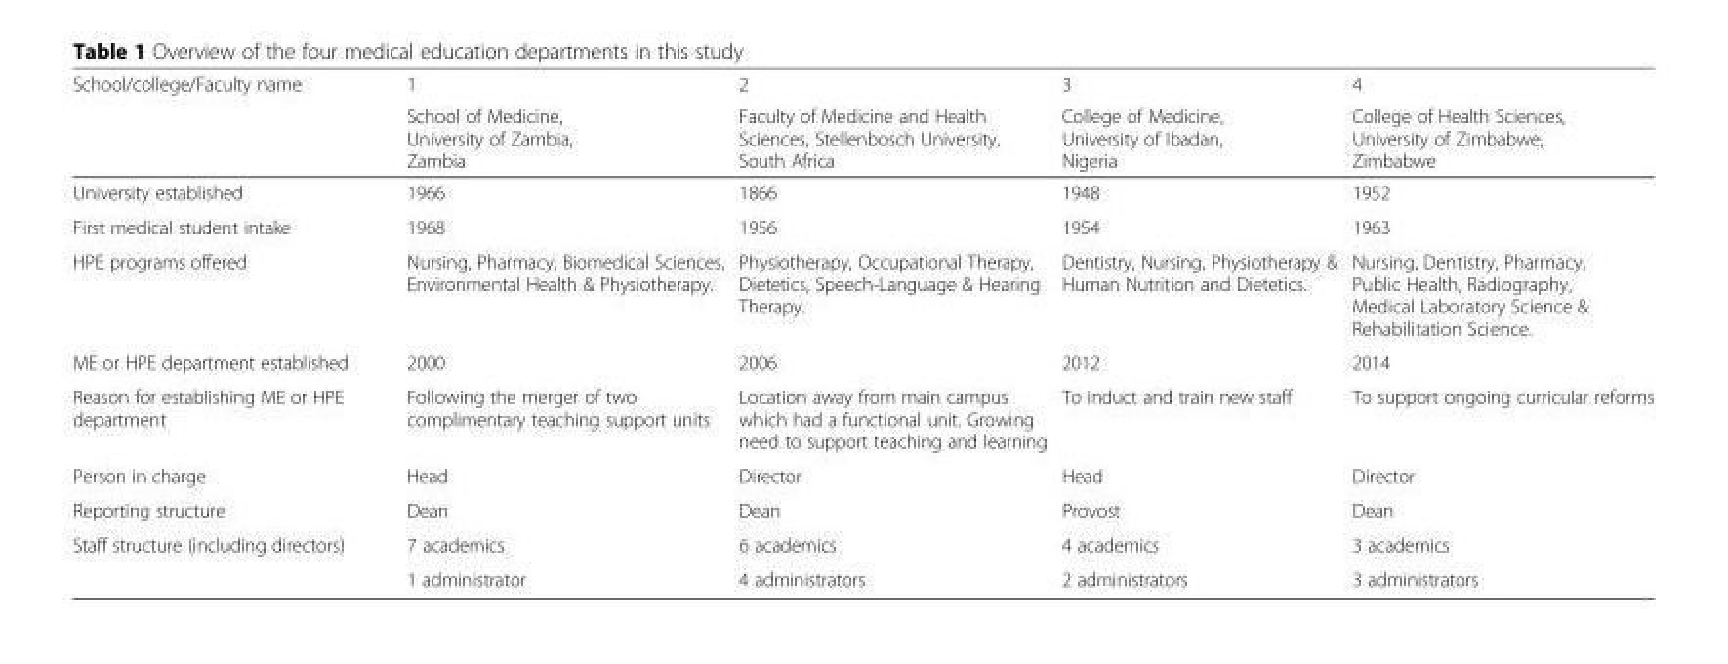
<table><thead><tr><td rowspan="2">School/college/Faculty name</td><td rowspan="2">1 School of Medicine, University of Zambia, Zambia</td><td rowspan="2">2 Faculty of Medicine and Health Sciences, Stellenbosch University, South Africa</td><td rowspan="2">3 College of Medicine, University of Ibadan, Nigeria</td><td rowspan="2">4 College of Health Sciences, University of Zimbabwe, Zimbabwe</td></tr><tr></tr></thead><tbody><tr><td>University established</td><td>1966</td><td>1866</td><td>1948</td><td>1952</td></tr><tr><td>First medical student intake</td><td>1968</td><td>1956</td><td>1954</td><td>1963</td></tr><tr><td>HPE programs offered</td><td>Nursing, Pharmacy, Biomedical Sciences, Environmental Health &amp; Physiotherapy.</td><td>Physiotherapy, Occupational Therapy, Dietetics, Speech-Language &amp; Hearing Therapy.</td><td>Dentistry, Nursing, Physiotherapy &amp; Human Nutrition and Dietetics.</td><td>Nursing, Dentistry, Pharmacy, Public Health, Radiography, Medical Laboratory Science &amp; Rehabilitation Science.</td></tr><tr><td>ME or HPE department established</td><td>2000</td><td>2006</td><td>2012</td><td>2014</td></tr><tr><td>Reason for establishing ME or HPE department</td><td>Following the merger of two complimentary teaching support units</td><td>Location away from main campus which had a functional unit. Growing need to support teaching and learning</td><td>To induct and train new staff</td><td>To support ongoing curricular reforms</td></tr><tr><td>Person in charge</td><td>Head</td><td>Director</td><td>Head</td><td>Director</td></tr><tr><td>Reporting structure</td><td>Dean</td><td>Dean</td><td>Provost</td><td>Dean</td></tr><tr><td rowspan="2">Staff structure (including directors)</td><td>7 academics</td><td>6 academics</td><td>4 academics</td><td>3 academics</td></tr><tr><td>1 administrator</td><td>4 administrators</td><td>2 administrators</td><td>3 administrators</td></tr></tbody></table>